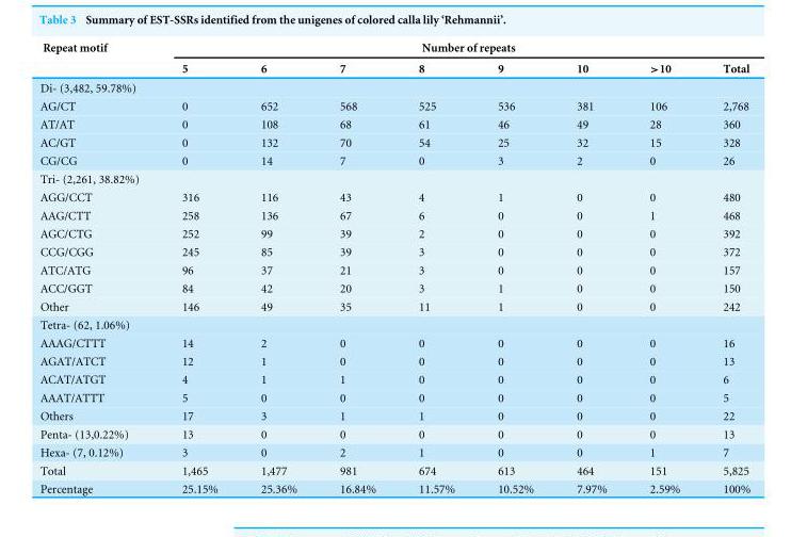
<table><thead><tr><td rowspan="2">Repeat motif</td><td colspan="8">Number of repeats</td></tr><tr><td>5</td><td>6</td><td>7</td><td>8</td><td>9</td><td>10</td><td>&gt;10</td><td>Total</td></tr></thead><tbody><tr><td colspan="9">Di- (3,482, 59.78%)</td></tr><tr><td>AG/CT</td><td>0</td><td>652</td><td>568</td><td>525</td><td>536</td><td>381</td><td>106</td><td>2,768</td></tr><tr><td>AT/AT</td><td>0</td><td>108</td><td>68</td><td>61</td><td>46</td><td>49</td><td>28</td><td>360</td></tr><tr><td>AC/GT</td><td>0</td><td>132</td><td>70</td><td>54</td><td>25</td><td>32</td><td>15</td><td>328</td></tr><tr><td>CG/CG</td><td>0</td><td>14</td><td>7</td><td>0</td><td>3</td><td>2</td><td>0</td><td>26</td></tr><tr><td colspan="9">Tri- (2,261, 38.82%)</td></tr><tr><td>AGG/CCT</td><td>316</td><td>116</td><td>43</td><td>4</td><td>1</td><td>0</td><td>0</td><td>480</td></tr><tr><td>AAG/CTT</td><td>258</td><td>136</td><td>67</td><td>6</td><td>0</td><td>0</td><td>1</td><td>468</td></tr><tr><td>AGC/CTG</td><td>252</td><td>99</td><td>39</td><td>2</td><td>0</td><td>0</td><td>0</td><td>392</td></tr><tr><td>CCG/CGG</td><td>245</td><td>85</td><td>39</td><td>3</td><td>0</td><td>0</td><td>0</td><td>372</td></tr><tr><td>ATC/ATG</td><td>96</td><td>37</td><td>21</td><td>3</td><td>0</td><td>0</td><td>0</td><td>157</td></tr><tr><td>ACC/GGT</td><td>84</td><td>42</td><td>20</td><td>3</td><td>1</td><td>0</td><td>0</td><td>150</td></tr><tr><td>Other</td><td>146</td><td>49</td><td>35</td><td>11</td><td>1</td><td>0</td><td>0</td><td>242</td></tr><tr><td colspan="9">Tetra- (62, 1.06%)</td></tr><tr><td>AAAG/CTTT</td><td>14</td><td>2</td><td>0</td><td>0</td><td>0</td><td>0</td><td>0</td><td>16</td></tr><tr><td>AGAT/ATCT</td><td>12</td><td>1</td><td>0</td><td>0</td><td>0</td><td>0</td><td>0</td><td>13</td></tr><tr><td>ACAT/ATGT</td><td>4</td><td>1</td><td>1</td><td>0</td><td>0</td><td>0</td><td>0</td><td>6</td></tr><tr><td>AAAT/ATTT</td><td>5</td><td>0</td><td>0</td><td>0</td><td>0</td><td>0</td><td>0</td><td>5</td></tr><tr><td>Others</td><td>17</td><td>3</td><td>1</td><td>1</td><td>0</td><td>0</td><td>0</td><td>22</td></tr><tr><td>Penta- (13,0.22%)</td><td>13</td><td>0</td><td>0</td><td>0</td><td>0</td><td>0</td><td>0</td><td>13</td></tr><tr><td>Hexa- (7, 0.12%)</td><td>3</td><td>0</td><td>2</td><td>1</td><td>0</td><td>0</td><td>1</td><td>7</td></tr><tr><td>Total</td><td>1,465</td><td>1,477</td><td>981</td><td>674</td><td>613</td><td>464</td><td>151</td><td>5,825</td></tr><tr><td>Percentage</td><td>25.15%</td><td>25.36%</td><td>16.84%</td><td>11.57%</td><td>10.52%</td><td>7.97%</td><td>2.59%</td><td>100%</td></tr></tbody></table>